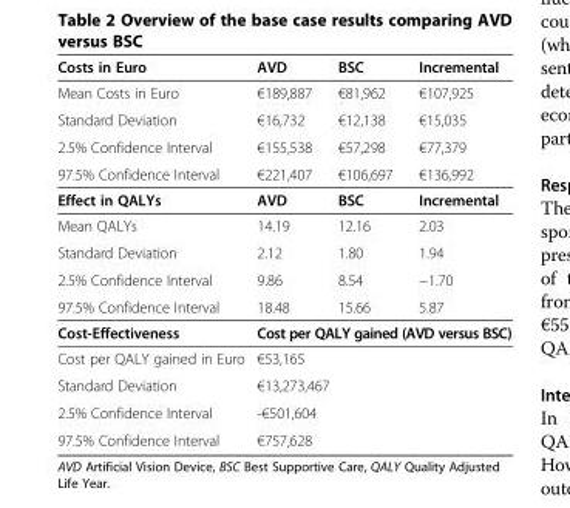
<table><thead><tr><td>Costs in Euro</td><td>AVD</td><td>BSC</td><td>Incremental</td></tr></thead><tbody><tr><td>Mean Costs in Euro</td><td>€189,887</td><td>€81,962</td><td>€107,925</td></tr><tr><td>Standard Deviation</td><td>€16,732</td><td>€12,138</td><td>€15,035</td></tr><tr><td>2.5% Confidence Interval</td><td>€155,538</td><td>€57,298</td><td>€77,379</td></tr><tr><td>97.5% Confidence Interval</td><td>€221,407</td><td>€106,697</td><td>€136,992</td></tr><tr><td>Effect in QALYs</td><td>AVD</td><td>BSC</td><td>Incremental</td></tr><tr><td>Mean QALYs</td><td>14.19</td><td>12.16</td><td>2.03</td></tr><tr><td>Standard Deviation</td><td>2.12</td><td>1.80</td><td>1.94</td></tr><tr><td>2.5% Confidence Interval</td><td>9.86</td><td>8.54</td><td>−1.70</td></tr><tr><td>97.5% Confidence Interval</td><td>18.48</td><td>15.66</td><td>5.87</td></tr><tr><td>Cost-Effectiveness</td><td colspan="3">Cost per QALY gained (AVD versus BSC)</td></tr><tr><td>Cost per QALY gained in Euro</td><td colspan="3">€53,165</td></tr><tr><td>Standard Deviation</td><td colspan="3">€13,273,467</td></tr><tr><td>2.5% Confidence Interval</td><td colspan="3">-€501,604</td></tr><tr><td>97.5% Confidence Interval</td><td colspan="3">€757,628</td></tr></tbody></table>